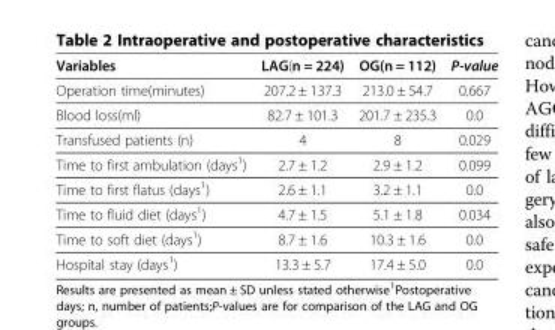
<table><thead><tr><td>Variables</td><td>LAG(n = 224)</td><td>OG(n = 112)</td><td>P-value</td></tr></thead><tbody><tr><td>Operation time(minutes)</td><td>207.2 ± 137.3</td><td>213.0 ± 54.7</td><td>0.667</td></tr><tr><td>Blood loss(ml)</td><td>82.7 ± 101.3</td><td>201.7 ± 235.3</td><td>0.0</td></tr><tr><td>Transfused patients (n)</td><td>4</td><td>8</td><td>0.029</td></tr><tr><td>Time to first ambulation (days<sup>1</sup>)</td><td>2.7 ± 1.2</td><td>2.9 ± 1.2</td><td>0.099</td></tr><tr><td>Time to first flatus (days<sup>1</sup>)</td><td>2.6 ± 1.1</td><td>3.2 ± 1.1</td><td>0.0</td></tr><tr><td>Time to fluid diet (days<sup>1</sup>)</td><td>4.7 ± 1.5</td><td>5.1 ± 1.8</td><td>0.034</td></tr><tr><td>Time to soft diet (days<sup>1</sup>)</td><td>8.7 ± 1.6</td><td>10.3 ± 1.6</td><td>0.0</td></tr><tr><td>Hospital stay (days<sup>1</sup>)</td><td>13.3 ± 5.7</td><td>17.4 ± 5.0</td><td>0.0</td></tr></tbody></table>